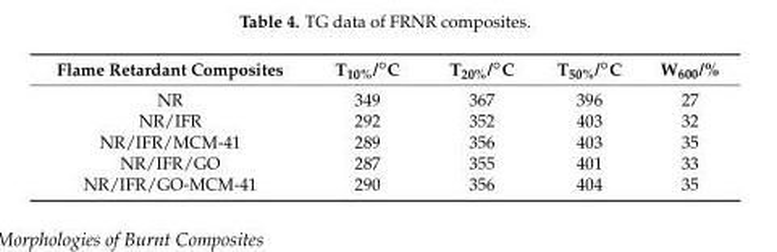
<table><thead><tr><td>Flame Retardant Composites</td><td>T10%/◦C</td><td>T20%/◦C</td><td>T50%/◦C</td><td>W<sub>600</sub>/%</td></tr></thead><tbody><tr><td>NR</td><td>349</td><td>367</td><td>396</td><td>27</td></tr><tr><td>NR/IFR</td><td>292</td><td>352</td><td>403</td><td>32</td></tr><tr><td>NR/IFR/MCM-41</td><td>289</td><td>356</td><td>403</td><td>35</td></tr><tr><td>NR/IFR/GO</td><td>287</td><td>355</td><td>401</td><td>33</td></tr><tr><td>NR/IFR/GO-MCM-41</td><td>290</td><td>356</td><td>404</td><td>35</td></tr></tbody></table>